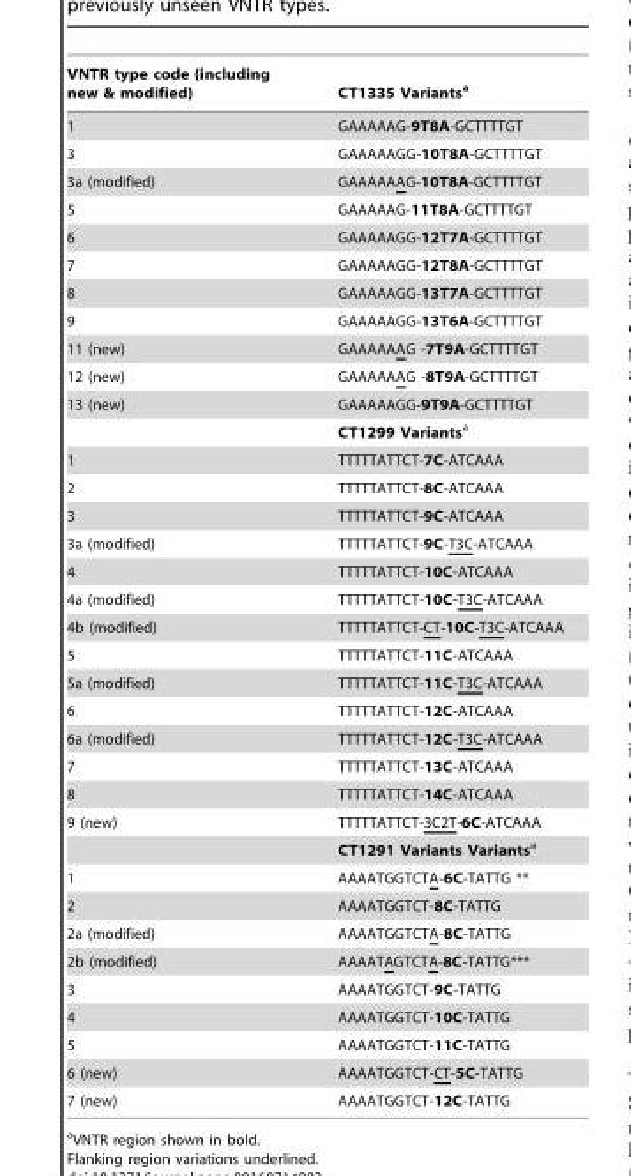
<table><thead><tr><td>VNTR type code (including new &amp; modified)</td><td>CT1335 Variants<sup>a</sup></td></tr></thead><tbody><tr><td>1</td><td>GAAAAAG-9T8A-GCTTTTGT</td></tr><tr><td>3</td><td>GAAAAAGG-10T8A-GCTTTTGT</td></tr><tr><td>3a (modified)</td><td>GAAAAAAG-10T8A-GCTTTTGT</td></tr><tr><td>5</td><td>GAAAAAG-11T8A-GCTTTTGT</td></tr><tr><td>6</td><td>GAAAAAGG-12T7A-GCTTTTGT</td></tr><tr><td>7</td><td>GAAAAAGG-12T8A-GCTTTTGT</td></tr><tr><td>8</td><td>GAAAAAGG-13T7A-GCTTTTGT</td></tr><tr><td>9</td><td>GAAAAAGG-13T6A-GCTTTTGT</td></tr><tr><td>11 (new)</td><td>GAAAAAAG -7T9A-GCTTTTGT</td></tr><tr><td>12 (new)</td><td>GAAAAAAG -8T9A-GCTTTTGT</td></tr><tr><td rowspan="2">13 (new)</td><td>GAAAAAGG-9T9A-GCTTTTGT</td></tr><tr><td>CT1299 Variantsa</td></tr><tr><td>1</td><td>TTTTTATTCT-7C-ATCAAA</td></tr><tr><td>2</td><td>TTTTTATTCT-8C-ATCAAA</td></tr><tr><td>3</td><td>TTTTTATTCT-9C-ATCAAA</td></tr><tr><td>3a (modified)</td><td>TTTTTATTCT-9C-T3C-ATCAAA</td></tr><tr><td>4</td><td>TTTTTATTCT-10C-ATCAAA</td></tr><tr><td>4a (modified)</td><td>TTTTTATTCT-10C-T3C-ATCAAA</td></tr><tr><td>4b (modified)</td><td>TTTTTATTCT-CT-10C-T3C-ATCAAA</td></tr><tr><td>5</td><td>TTTTTATTCT-11C-ATCAAA</td></tr><tr><td>5a (modified)</td><td>TTTTTATTCT-11C-T3C-ATCAAA</td></tr><tr><td>6</td><td>TTTTTATTCT-12C-ATCAAA</td></tr><tr><td>6a (modified)</td><td>TTTTTATTCT-12C-T3C-ATCAAA</td></tr><tr><td>7</td><td>TTTTTATTCT-13C-ATCAAA</td></tr><tr><td>8</td><td>TTTTTATTCT-14C-ATCAAA</td></tr><tr><td rowspan="2">9 (new)</td><td>TTTTTATTCT-3C2T-6C-ATCAAA</td></tr><tr><td>CT1291 Variants Variantsa</td></tr><tr><td>1</td><td>AAAATGGTCTA-6C-TATTG **</td></tr><tr><td>2</td><td>AAAATGGTCT-8C-TATTG</td></tr><tr><td>2a (modified)</td><td>AAAATGGTCTA-8C-TATTG</td></tr><tr><td>2b (modified)</td><td>AAAATAGTCTA-8C-TATTG***</td></tr><tr><td>3</td><td>AAAATGGTCT-9C-TATTG</td></tr><tr><td>4</td><td>AAAATGGTCT-10C-TATTG</td></tr><tr><td>5</td><td>AAAATGGTCT-11C-TATTG</td></tr><tr><td>6 (new)</td><td>AAAATGGTCT-CT-5C-TATTG</td></tr><tr><td>7 (new)</td><td>AAAATGGTCT-12C-TATTG</td></tr></tbody></table>